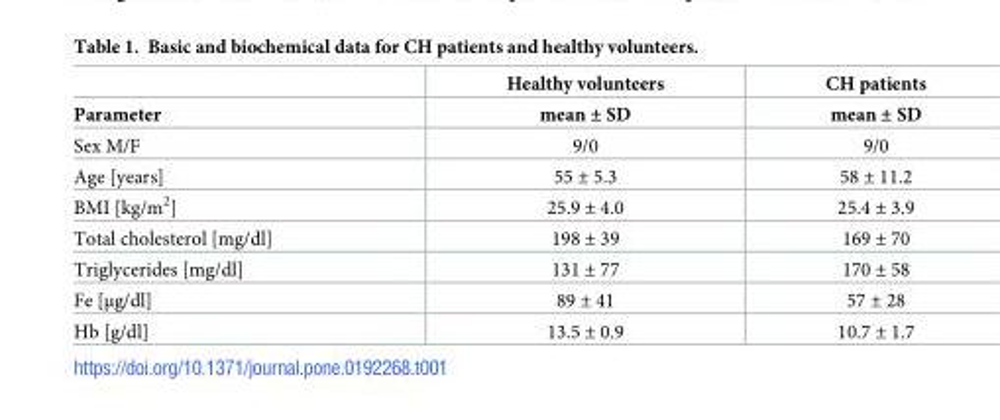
<table><thead><tr><td rowspan="2">Parameter</td><td rowspan="2">Healthy volunteers mean ± SD</td><td rowspan="2">CH patients mean ± SD</td></tr><tr></tr></thead><tbody><tr><td>Sex M/F</td><td>9/0</td><td>9/0</td></tr><tr><td>Age [years]</td><td>55 ± 5.3</td><td>58 ± 11.2</td></tr><tr><td>BMI [kg/m<sup>2</sup>]</td><td>25.9 ± 4.0</td><td>25.4 ± 3.9</td></tr><tr><td>Total cholesterol [mg/dl]</td><td>198 ± 39</td><td>169 ± 70</td></tr><tr><td>Triglycerides [mg/dl]</td><td>131 ± 77</td><td>170 ± 58</td></tr><tr><td>Fe [μg/dl]</td><td>89 ± 41</td><td>57 ± 28</td></tr><tr><td>Hb [g/dl]</td><td>13.5 ± 0.9</td><td>10.7 ± 1.7</td></tr></tbody></table>